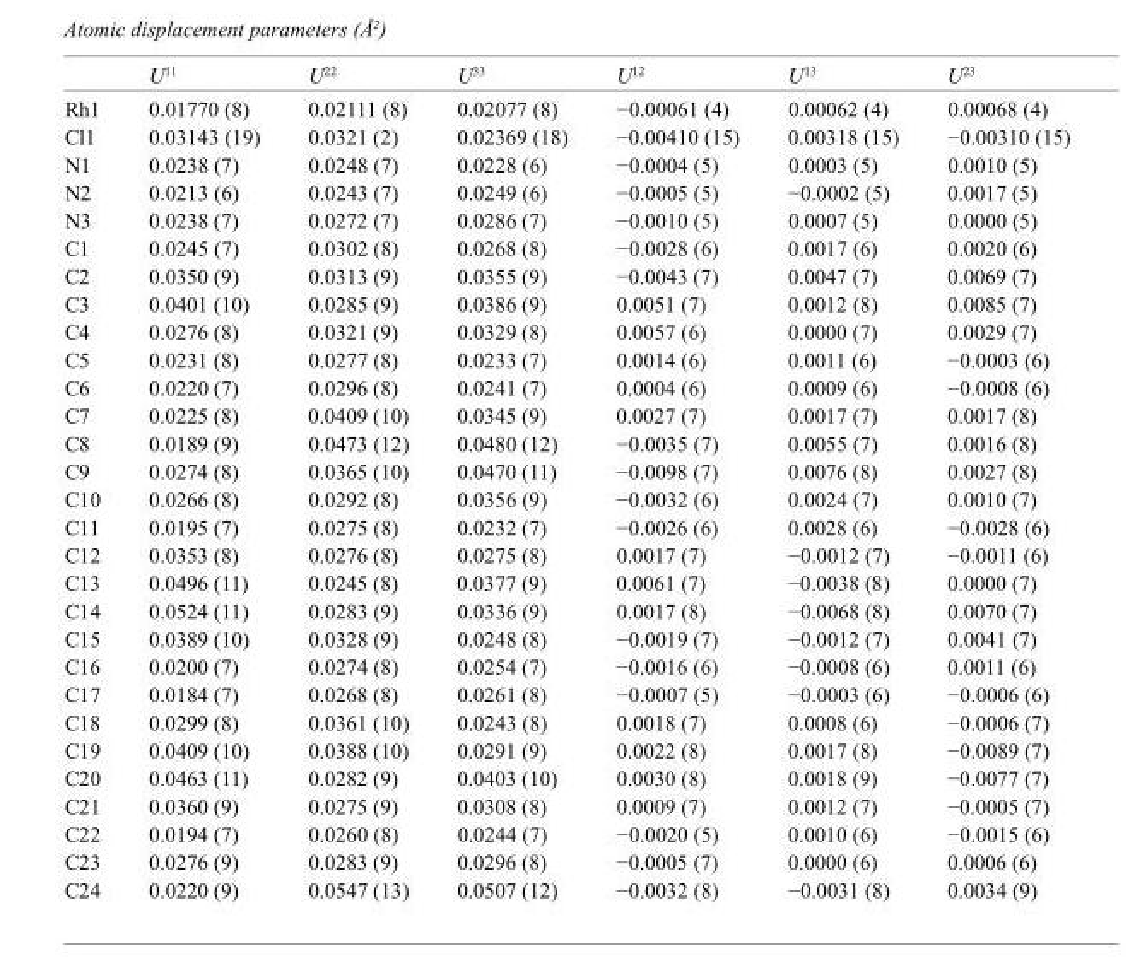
<table><thead><tr><td></td><td>U<sup>11</sup></td><td>U<sup>22</sup></td><td>U<sup>33</sup></td><td>U<sup>12</sup></td><td>U<sup>13</sup></td><td>U<sup>23</sup></td></tr></thead><tbody><tr><td>Rh1</td><td>0.01770 (8)</td><td>0.02111 (8)</td><td>0.02077 (8)</td><td>−0.00061 (4)</td><td>0.00062 (4)</td><td>0.00068 (4)</td></tr><tr><td>Cl1</td><td>0.03143 (19)</td><td>0.0321 (2)</td><td>0.02369 (18)</td><td>−0.00410 (15)</td><td>0.00318 (15)</td><td>−0.00310 (15)</td></tr><tr><td>N1</td><td>0.0238 (7)</td><td>0.0248 (7)</td><td>0.0228 (6)</td><td>−0.0004 (5)</td><td>0.0003 (5)</td><td>0.0010 (5)</td></tr><tr><td>N2</td><td>0.0213 (6)</td><td>0.0243 (7)</td><td>0.0249 (6)</td><td>−0.0005 (5)</td><td>−0.0002 (5)</td><td>0.0017 (5)</td></tr><tr><td>N3</td><td>0.0238 (7)</td><td>0.0272 (7)</td><td>0.0286 (7)</td><td>−0.0010 (5)</td><td>0.0007 (5)</td><td>0.0000 (5)</td></tr><tr><td>C1</td><td>0.0245 (7)</td><td>0.0302 (8)</td><td>0.0268 (8)</td><td>−0.0028 (6)</td><td>0.0017 (6)</td><td>0.0020 (6)</td></tr><tr><td>C2</td><td>0.0350 (9)</td><td>0.0313 (9)</td><td>0.0355 (9)</td><td>−0.0043 (7)</td><td>0.0047 (7)</td><td>0.0069 (7)</td></tr><tr><td>C3</td><td>0.0401 (10)</td><td>0.0285 (9)</td><td>0.0386 (9)</td><td>0.0051 (7)</td><td>0.0012 (8)</td><td>0.0085 (7)</td></tr><tr><td>C4</td><td>0.0276 (8)</td><td>0.0321 (9)</td><td>0.0329 (8)</td><td>0.0057 (6)</td><td>0.0000 (7)</td><td>0.0029 (7)</td></tr><tr><td>C5</td><td>0.0231 (8)</td><td>0.0277 (8)</td><td>0.0233 (7)</td><td>0.0014 (6)</td><td>0.0011 (6)</td><td>−0.0003 (6)</td></tr><tr><td>C6</td><td>0.0220 (7)</td><td>0.0296 (8)</td><td>0.0241 (7)</td><td>0.0004 (6)</td><td>0.0009 (6)</td><td>−0.0008 (6)</td></tr><tr><td>C7</td><td>0.0225 (8)</td><td>0.0409 (10)</td><td>0.0345 (9)</td><td>0.0027 (7)</td><td>0.0017 (7)</td><td>0.0017 (8)</td></tr><tr><td>C8</td><td>0.0189 (9)</td><td>0.0473 (12)</td><td>0.0480 (12)</td><td>−0.0035 (7)</td><td>0.0055 (7)</td><td>0.0016 (8)</td></tr><tr><td>C9</td><td>0.0274 (8)</td><td>0.0365 (10)</td><td>0.0470 (11)</td><td>−0.0098 (7)</td><td>0.0076 (8)</td><td>0.0027 (8)</td></tr><tr><td>C10</td><td>0.0266 (8)</td><td>0.0292 (8)</td><td>0.0356 (9)</td><td>−0.0032 (6)</td><td>0.0024 (7)</td><td>0.0010 (7)</td></tr><tr><td>C11</td><td>0.0195 (7)</td><td>0.0275 (8)</td><td>0.0232 (7)</td><td>−0.0026 (6)</td><td>0.0028 (6)</td><td>−0.0028 (6)</td></tr><tr><td>C12</td><td>0.0353 (8)</td><td>0.0276 (8)</td><td>0.0275 (8)</td><td>0.0017 (7)</td><td>−0.0012 (7)</td><td>−0.0011 (6)</td></tr><tr><td>C13</td><td>0.0496 (11)</td><td>0.0245 (8)</td><td>0.0377 (9)</td><td>0.0061 (7)</td><td>−0.0038 (8)</td><td>0.0000 (7)</td></tr><tr><td>C14</td><td>0.0524 (11)</td><td>0.0283 (9)</td><td>0.0336 (9)</td><td>0.0017 (8)</td><td>−0.0068 (8)</td><td>0.0070 (7)</td></tr><tr><td>C15</td><td>0.0389 (10)</td><td>0.0328 (9)</td><td>0.0248 (8)</td><td>−0.0019 (7)</td><td>−0.0012 (7)</td><td>0.0041 (7)</td></tr><tr><td>C16</td><td>0.0200 (7)</td><td>0.0274 (8)</td><td>0.0254 (7)</td><td>−0.0016 (6)</td><td>−0.0008 (6)</td><td>0.0011 (6)</td></tr><tr><td>C17</td><td>0.0184 (7)</td><td>0.0268 (8)</td><td>0.0261 (8)</td><td>−0.0007 (5)</td><td>−0.0003 (6)</td><td>−0.0006 (6)</td></tr><tr><td>C18</td><td>0.0299 (8)</td><td>0.0361 (10)</td><td>0.0243 (8)</td><td>0.0018 (7)</td><td>0.0008 (6)</td><td>−0.0006 (7)</td></tr><tr><td>C19</td><td>0.0409 (10)</td><td>0.0388 (10)</td><td>0.0291 (9)</td><td>0.0022 (8)</td><td>0.0017 (8)</td><td>−0.0089 (7)</td></tr><tr><td>C20</td><td>0.0463 (11)</td><td>0.0282 (9)</td><td>0.0403 (10)</td><td>0.0030 (8)</td><td>0.0018 (9)</td><td>−0.0077 (7)</td></tr><tr><td>C21</td><td>0.0360 (9)</td><td>0.0275 (9)</td><td>0.0308 (8)</td><td>0.0009 (7)</td><td>0.0012 (7)</td><td>−0.0005 (7)</td></tr><tr><td>C22</td><td>0.0194 (7)</td><td>0.0260 (8)</td><td>0.0244 (7)</td><td>−0.0020 (5)</td><td>0.0010 (6)</td><td>−0.0015 (6)</td></tr><tr><td>C23</td><td>0.0276 (9)</td><td>0.0283 (9)</td><td>0.0296 (8)</td><td>−0.0005 (7)</td><td>0.0000 (6)</td><td>0.0006 (6)</td></tr><tr><td>C24</td><td>0.0220 (9)</td><td>0.0547 (13)</td><td>0.0507 (12)</td><td>−0.0032 (8)</td><td>−0.0031 (8)</td><td>0.0034 (9)</td></tr></tbody></table>